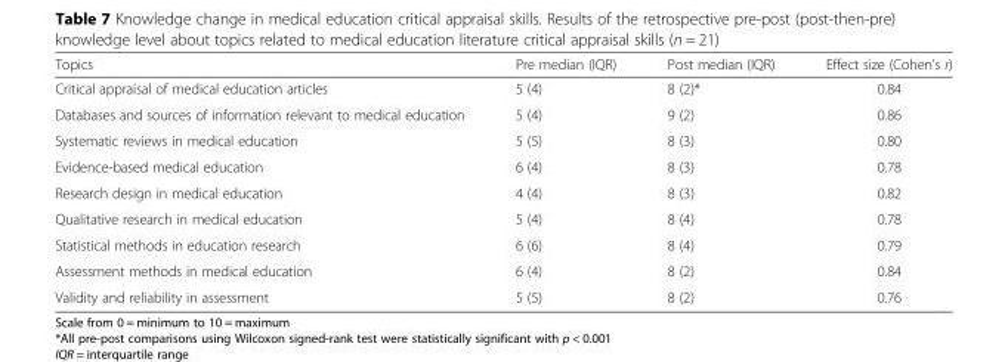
<table><thead><tr><td>Topics</td><td>Pre median (IQR)</td><td>Post median (IQR)</td><td>Effect size (Cohen’s r)</td></tr></thead><tbody><tr><td>Critical appraisal of medical education articles</td><td>5 (4)</td><td>8 (2)*</td><td>0.84</td></tr><tr><td>Databases and sources of information relevant to medical education</td><td>5 (4)</td><td>9 (2)</td><td>0.86</td></tr><tr><td>Systematic reviews in medical education</td><td>5 (5)</td><td>8 (3)</td><td>0.80</td></tr><tr><td>Evidence-based medical education</td><td>6 (4)</td><td>8 (3)</td><td>0.78</td></tr><tr><td>Research design in medical education</td><td>4 (4)</td><td>8 (3)</td><td>0.82</td></tr><tr><td>Qualitative research in medical education</td><td>5 (4)</td><td>8 (4)</td><td>0.78</td></tr><tr><td>Statistical methods in education research</td><td>6 (6)</td><td>8 (4)</td><td>0.79</td></tr><tr><td>Assessment methods in medical education</td><td>6 (4)</td><td>8 (2)</td><td>0.84</td></tr><tr><td>Validity and reliability in assessment</td><td>5 (5)</td><td>8 (2)</td><td>0.76</td></tr></tbody></table>